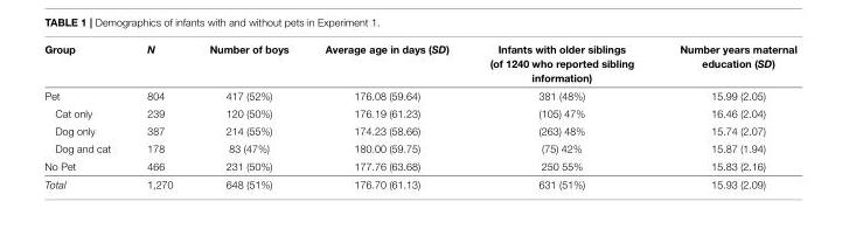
<table><thead><tr><td>Group</td><td>N</td><td>Number of boys</td><td>Average age in days (SD)</td><td>Infants with older siblings (of 1240 who reported sibling information)</td><td>Number years maternal education (SD)</td></tr></thead><tbody><tr><td>Pet</td><td>804</td><td>417 (52%)</td><td>176.08 (59.64)</td><td>381 (48%)</td><td>15.99 (2.05)</td></tr><tr><td>Cat only</td><td>239</td><td>120 (50%)</td><td>176.19 (61.23)</td><td>(105) 47%</td><td>16.46 (2.04)</td></tr><tr><td>Dog only</td><td>387</td><td>214 (55%)</td><td>174.23 (58.66)</td><td>(263) 48%</td><td>15.74 (2.07)</td></tr><tr><td>Dog and cat</td><td>178</td><td>83 (47%)</td><td>180.00 (59.75)</td><td>(75) 42%</td><td>15.87 (1.94)</td></tr><tr><td>No Pet</td><td>466</td><td>231 (50%)</td><td>177.76 (63.68)</td><td>250 55%</td><td>15.83 (2.16)</td></tr><tr><td>Total</td><td>1,270</td><td>648 (51%)</td><td>176.70 (61.13)</td><td>631 (51%)</td><td>15.93 (2.09)</td></tr></tbody></table>